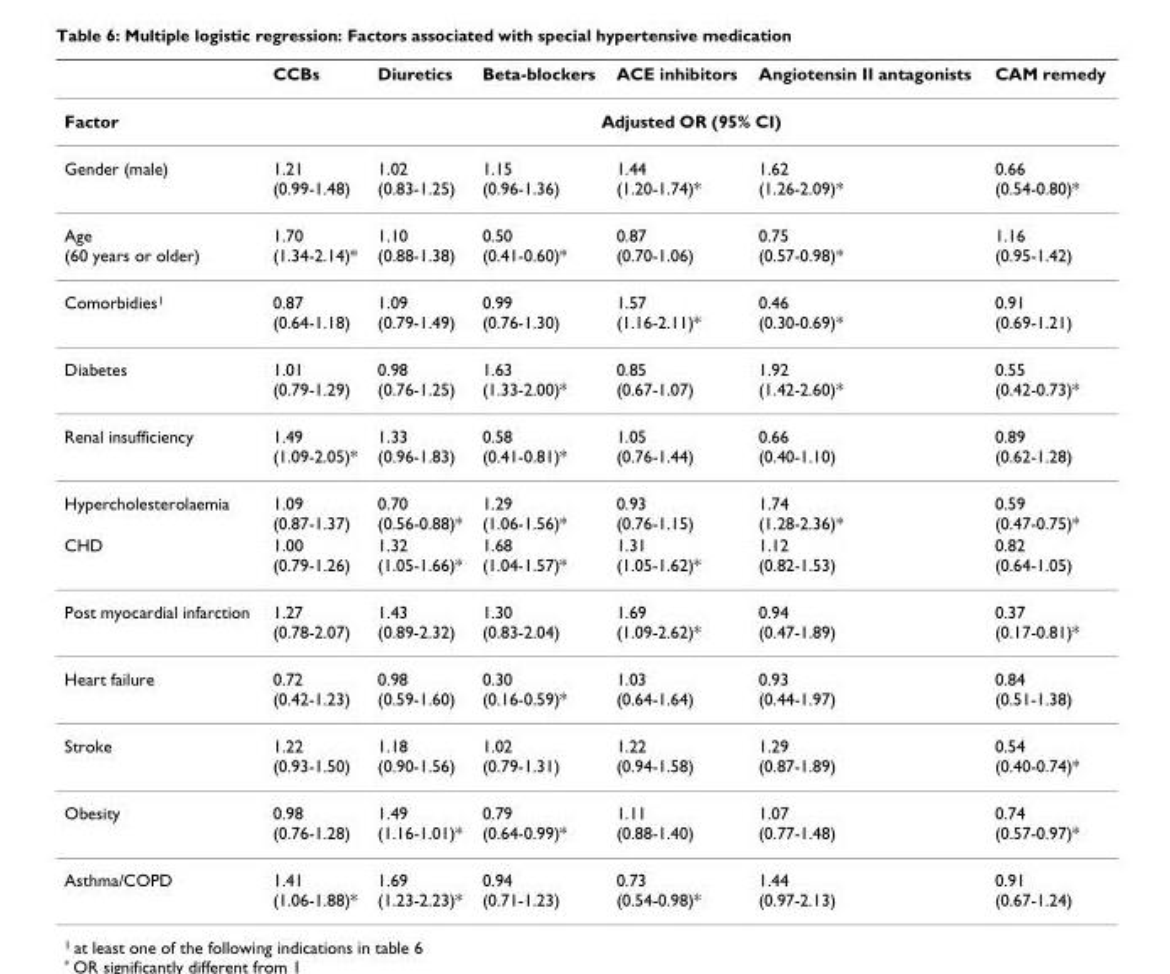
<table><thead><tr><td></td><td>CCBs</td><td>Diuretics</td><td>Beta-blockers</td><td>ACE inhibitors</td><td>Angiotensin II antagonists</td><td>CAM remedy</td></tr></thead><tbody><tr><td>Factor</td><td colspan="6">Adjusted OR (95% CI)</td></tr><tr><td>Gender (male)</td><td>1.21 (0.99-1.48)</td><td>1.02 (0.83-1.25)</td><td>1.15 (0.96-1.36)</td><td>1.44 (1.20-1.74)*</td><td>1.62 (1.26-2.09)*</td><td>0.66 (0.54-0.80)*</td></tr><tr><td>Age (60 years or older)</td><td>1.70 (1.34-2.14)*</td><td>1.10 (0.88-1.38)</td><td>0.50 (0.41-0.60)*</td><td>0.87 (0.70-1.06)</td><td>0.75 (0.57-0.98)*</td><td>1.16 (0.95-1.42)</td></tr><tr><td>Comorbidies<sup>1</sup></td><td>0.87 (0.64-1.18)</td><td>1.09 (0.79-1.49)</td><td>0.99 (0.76-1.30)</td><td>1.57 (1.16-2.11)*</td><td>0.46 (0.30-0.69)*</td><td>0.91 (0.69-1.21)</td></tr><tr><td>Diabetes</td><td>1.01 (0.79-1.29)</td><td>0.98 (0.76-1.25)</td><td>1.63 (1.33-2.00)*</td><td>0.85 (0.67-1.07)</td><td>1.92 (1.42-2.60)*</td><td>0.55 (0.42-0.73)*</td></tr><tr><td>Renal insufficiency</td><td>1.49 (1.09-2.05)*</td><td>1.33 (0.96-1.83)</td><td>0.58 (0.41-0.81)*</td><td>1.05 (0.76-1.44)</td><td>0.66 (0.40-1.10)</td><td>0.89 (0.62-1.28)</td></tr><tr><td>Hypercholesterolaemia</td><td>1.09 (0.87-1.37)</td><td>0.70 (0.56-0.88)*</td><td>1.29 (1.06-1.56)*</td><td>0.93 (0.76-1.15)</td><td>1.74 (1.28-2.36)*</td><td>0.59 (0.47-0.75)*</td></tr><tr><td>CHD</td><td>1.00 (0.79-1.26)</td><td>1.32 (1.05-1.66)*</td><td>1.68 (1.04-1.57)*</td><td>1.31 (1.05-1.62)*</td><td>1.12 (0.82-1.53)</td><td>0.82 (0.64-1.05)</td></tr><tr><td>Post myocardial infarction</td><td>1.27 (0.78-2.07)</td><td>1.43 (0.89-2.32)</td><td>1.30 (0.83-2.04)</td><td>1.69 (1.09-2.62)*</td><td>0.94 (0.47-1.89)</td><td>0.37 (0.17-0.81)*</td></tr><tr><td>Heart failure</td><td>0.72 (0.42-1.23)</td><td>0.98 (0.59-1.60)</td><td>0.30 (0.16-0.59)*</td><td>1.03 (0.64-1.64)</td><td>0.93 (0.44-1.97)</td><td>0.84 (0.51-1.38)</td></tr><tr><td>Stroke</td><td>1.22 (0.93-1.50)</td><td>1.18 (0.90-1.56)</td><td>1.02 (0.79-1.31)</td><td>1.22 (0.94-1.58)</td><td>1.29 (0.87-1.89)</td><td>0.54 (0.40-0.74)*</td></tr><tr><td>Obesity</td><td>0.98 (0.76-1.28)</td><td>1.49 (1.16-1.01)*</td><td>0.79 (0.64-0.99)*</td><td>1.11 (0.88-1.40)</td><td>1.07 (0.77-1.48)</td><td>0.74 (0.57-0.97)*</td></tr><tr><td>Asthma/COPD</td><td>1.41 (1.06-1.88)*</td><td>1.69 (1.23-2.23)*</td><td>0.94 (0.71-1.23)</td><td>0.73 (0.54-0.98)*</td><td>1.44 (0.97-2.13)</td><td>0.91 (0.67-1.24)</td></tr></tbody></table>